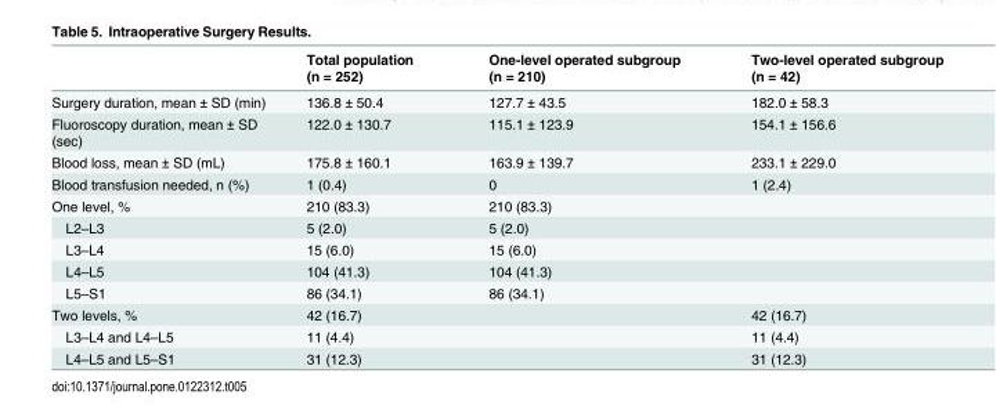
<table><thead><tr><td></td><td>Total population (n = 252)</td><td>One-level operated subgroup (n = 210)</td><td>Two-level operated subgroup (n = 42)</td></tr></thead><tbody><tr><td>Surgery duration, mean ± SD (min)</td><td>136.8 ± 50.4</td><td>127.7 ± 43.5</td><td>182.0 ± 58.3</td></tr><tr><td>Fluoroscopy duration, mean ± SD (sec)</td><td>122.0 ± 130.7</td><td>115.1 ± 123.9</td><td>154.1 ± 156.6</td></tr><tr><td>Blood loss, mean ± SD (mL)</td><td>175.8 ± 160.1</td><td>163.9 ± 139.7</td><td>233.1 ± 229.0</td></tr><tr><td>Blood transfusion needed, n (%)</td><td>1 (0.4)</td><td>0</td><td>1 (2.4)</td></tr><tr><td>One level, %</td><td>210 (83.3)</td><td>210 (83.3)</td><td></td></tr><tr><td>L2–L3</td><td>5 (2.0)</td><td>5 (2.0)</td><td></td></tr><tr><td>L3–L4</td><td>15 (6.0)</td><td>15 (6.0)</td><td></td></tr><tr><td>L4–L5</td><td>104 (41.3)</td><td>104 (41.3)</td><td></td></tr><tr><td>L5–S1</td><td>86 (34.1)</td><td>86 (34.1)</td><td></td></tr><tr><td>Two levels, %</td><td>42 (16.7)</td><td></td><td>42 (16.7)</td></tr><tr><td>L3–L4 and L4–L5</td><td>11 (4.4)</td><td></td><td>11 (4.4)</td></tr><tr><td>L4–L5 and L5–S1</td><td>31 (12.3)</td><td></td><td>31 (12.3)</td></tr></tbody></table>